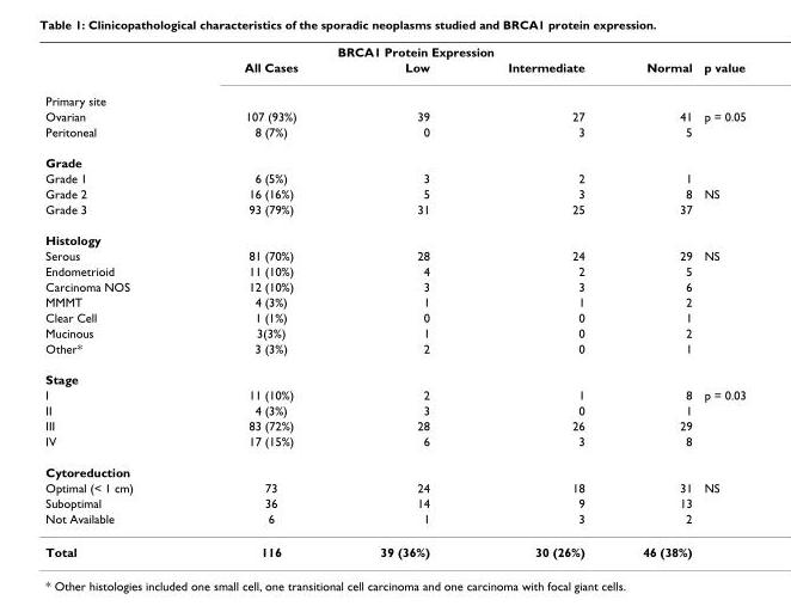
<table><thead><tr><td colspan="6">BRCA1 Protein Expression</td></tr><tr><td rowspan="25">Primary site Ovarian Peritoneal Grade Grade 1 Grade 2 Grade 3 Histology Serous Endometrioid Carcinoma NOS MMMT Clear Cell Mucinous Other* Stage I II III IV Cytoreduction Optimal (&lt; 1 cm) Suboptimal Not Available</td><td rowspan="25">All Cases 107 (93%) 8 (7%) 6 (5%) 16 (16%) 93 (79%) 81 (70%) 11 (10%) 12 (10%) 4 (3%) 1 (1%) 3(3%) 3 (3%) 11 (10%) 4 (3%) 83 (72%) 17 (15%) 73 36 6</td><td rowspan="25">Low 39 0 3 5 31 28 4 3 1 0 1 2 2 3 28 6 24 14 1</td><td rowspan="25">Intermediate 27 3 2 3 25 24 2 3 1 0 0 0 1 0 26 3 18 9 3</td><td rowspan="25">Normal 41 5 1 8 37 29 5 6 2 1 2 1 8 1 29 8 31 13 2</td><td rowspan="25">p value p = 0.05 NS NS p = 0.03 NS</td></tr><tr></tr><tr></tr><tr></tr><tr></tr><tr></tr><tr></tr><tr></tr><tr></tr><tr></tr><tr></tr><tr></tr><tr></tr><tr></tr><tr></tr><tr></tr><tr></tr><tr></tr><tr></tr><tr></tr><tr></tr><tr></tr><tr></tr><tr></tr><tr></tr></thead><tbody><tr><td>Total</td><td>116</td><td>39 (36%)</td><td>30 (26%)</td><td>46 (38%)</td><td></td></tr></tbody></table>